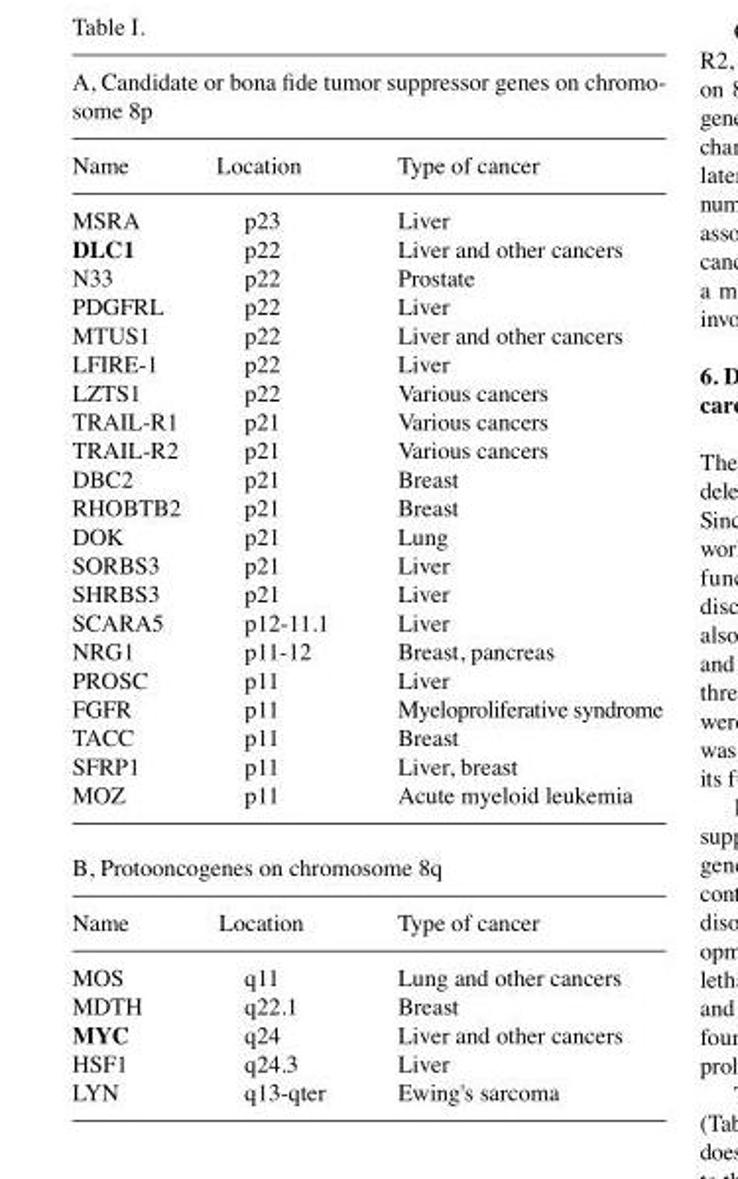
<table><tbody><tr><td colspan="3">A, Candidate or bona fide tumor suppressor genes on chromo- some 8p</td></tr><tr><td>Name</td><td>Location</td><td>Type of cancer</td></tr><tr><td>MSRA</td><td>p23</td><td>Liver</td></tr><tr><td>DLC1</td><td>p22</td><td>Liver and other cancers</td></tr><tr><td>N33</td><td>p22</td><td>Prostate</td></tr><tr><td>PDGFRL</td><td>p22</td><td>Liver</td></tr><tr><td>MTUS1</td><td>p22</td><td>Liver and other cancers</td></tr><tr><td>LFIRE-1</td><td>p22</td><td>Liver</td></tr><tr><td>LZTS1</td><td>p22</td><td>Various cancers</td></tr><tr><td>TRAIL-R1</td><td>p21</td><td>Various cancers</td></tr><tr><td>TRAIL-R2</td><td>p21</td><td>Various cancers</td></tr><tr><td>DBC2</td><td>p21</td><td>Breast</td></tr><tr><td>RHOBTB2</td><td>p21</td><td>Breast</td></tr><tr><td>DOK</td><td>p21</td><td>Lung</td></tr><tr><td>SORBS3</td><td>p21</td><td>Liver</td></tr><tr><td>SHRBS3</td><td>p21</td><td>Liver</td></tr><tr><td>SCARA5</td><td>p12-11.1</td><td>Liver</td></tr><tr><td>NRG1</td><td>p11-12</td><td>Breast, pancreas</td></tr><tr><td>PROSC</td><td>p11</td><td>Liver</td></tr><tr><td>FGFR</td><td>p11</td><td>Myeloproliferative syndrome</td></tr><tr><td>TACC</td><td>p11</td><td>Breast</td></tr><tr><td>SFRP1</td><td>p11</td><td>Liver, breast</td></tr><tr><td>MOZ</td><td>p11</td><td>Acute myeloid leukemia</td></tr><tr><td colspan="3">B, Protooncogenes on chromosome 8q</td></tr><tr><td>Name</td><td>Location</td><td>Type of cancer</td></tr><tr><td>MOS</td><td>q11</td><td>Lung and other cancers</td></tr><tr><td>MDTH</td><td>q22.1</td><td>Breast</td></tr><tr><td>MYC</td><td>q24</td><td>Liver and other cancers</td></tr><tr><td>HSF1</td><td>q24.3</td><td>Liver</td></tr><tr><td>LYN</td><td>q13-qter</td><td>Ewing&#x27;s sarcoma</td></tr></tbody></table>